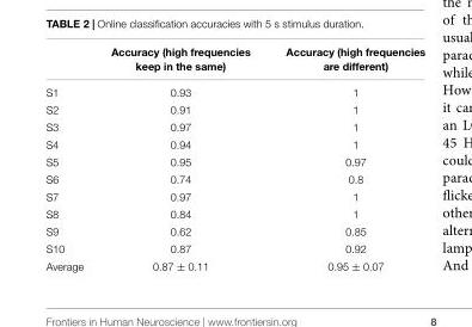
<table><thead><tr><td></td><td>Accuracy (high frequencies keep in the same)</td><td>Accuracy (high frequencies are different)</td></tr></thead><tbody><tr><td>S1</td><td>0.93</td><td>1</td></tr><tr><td>S2</td><td>0.91</td><td>1</td></tr><tr><td>S3</td><td>0.97</td><td>1</td></tr><tr><td>S4</td><td>0.94</td><td>1</td></tr><tr><td>S5</td><td>0.95</td><td>0.97</td></tr><tr><td>S6</td><td>0.74</td><td>0.8</td></tr><tr><td>S7</td><td>0.97</td><td>1</td></tr><tr><td>S8</td><td>0.84</td><td>1</td></tr><tr><td>S9</td><td>0.62</td><td>0.85</td></tr><tr><td>S10</td><td>0.87</td><td>0.92</td></tr><tr><td>Average</td><td>0.87 ± 0.11</td><td>0.95 ± 0.07</td></tr></tbody></table>